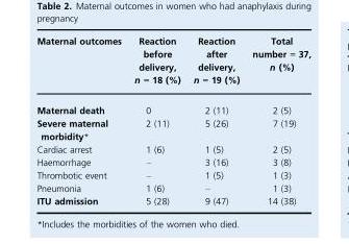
<table><thead><tr><td>Maternal outcomes</td><td>Reaction before delivery, n = 18 (%)</td><td>Reaction after delivery, n = 19 (%)</td><td>Total number = 37, n (%)</td></tr></thead><tbody><tr><td>Maternal death</td><td>0</td><td>2 (11)</td><td>2 (5)</td></tr><tr><td>Severe maternal morbidity*</td><td>2 (11)</td><td>5 (26)</td><td>7 (19)</td></tr><tr><td>Cardiac arrest</td><td>1 (6)</td><td>1 (5)</td><td>2 (5)</td></tr><tr><td>Haemorrhage</td><td>–</td><td>3 (16)</td><td>3 (8)</td></tr><tr><td>Thrombotic event</td><td>–</td><td>1 (5)</td><td>1 (3)</td></tr><tr><td>Pneumonia</td><td>1 (6)</td><td>–</td><td>1 (3)</td></tr><tr><td>ITU admission</td><td>5 (28)</td><td>9 (47)</td><td>14 (38)</td></tr></tbody></table>